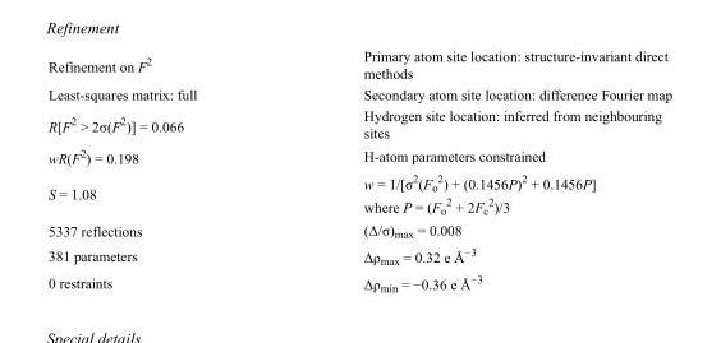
<table><tbody><tr><td>Refinement on F<sup>2</sup></td><td>Primary atom site location: structure-invariant direct methods</td></tr><tr><td>Least-squares matrix: full</td><td>Secondary atom site location: difference Fourier map</td></tr><tr><td>R[F<sup>2</sup> &gt; 2σ(F<sup>2</sup>)] = 0.066</td><td>Hydrogen site location: inferred from neighbouring sites</td></tr><tr><td>wR(F<sup>2</sup>) = 0.198</td><td>H-atom parameters constrained</td></tr><tr><td>S = 1.08</td><td>w = 1/[σ<sup>2</sup>(F<sub>o</sub> <sup>2</sup>) + (0.1456P)<sup>2</sup> + 0.1456P] where P = (F<sub>o</sub> <sup>2</sup> + 2F<sub>c</sub> <sup>2</sup>)/3</td></tr><tr><td>5337 reflections</td><td>(Δ/σ)<sub>max</sub> = 0.008</td></tr><tr><td>381 parameters</td><td>Δρ<sub>max</sub> = 0.32 e Å<sup>−3</sup></td></tr><tr><td>0 restraints</td><td>Δρ<sub>min</sub> = −0.36 e Å<sup>−3</sup></td></tr></tbody></table>